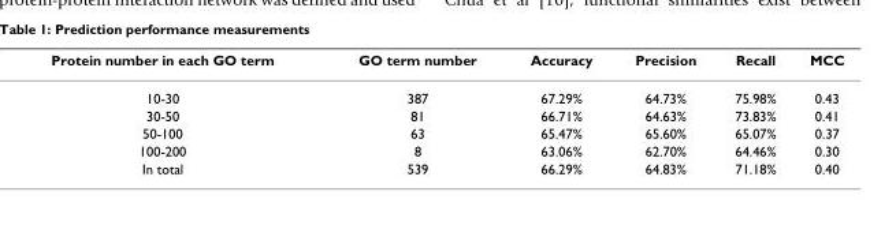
<table><thead><tr><td>Protein number in each GO term</td><td>GO term number</td><td>Accuracy</td><td>Precision</td><td>Recall</td><td>MCC</td></tr></thead><tbody><tr><td>10-30</td><td>387</td><td>67.29%</td><td>64.73%</td><td>75.98%</td><td>0.43</td></tr><tr><td>30-50</td><td>81</td><td>66.71%</td><td>64.63%</td><td>73.83%</td><td>0.41</td></tr><tr><td>50-100</td><td>63</td><td>65.47%</td><td>65.60%</td><td>65.07%</td><td>0.37</td></tr><tr><td>100-200</td><td>8</td><td>63.06%</td><td>62.70%</td><td>64.46%</td><td>0.30</td></tr><tr><td>In total</td><td>539</td><td>66.29%</td><td>64.83%</td><td>71.18%</td><td>0.40</td></tr></tbody></table>